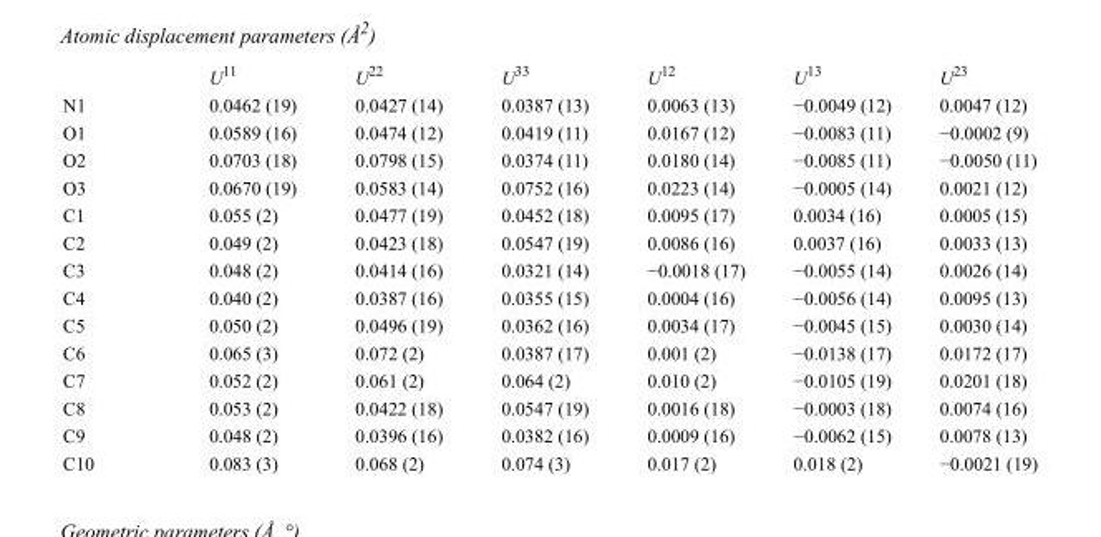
<table><thead><tr><td></td><td>U<sup>11</sup></td><td>U<sup>22</sup></td><td>U<sup>33</sup></td><td>U<sup>12</sup></td><td>U<sup>13</sup></td><td>U<sup>23</sup></td></tr></thead><tbody><tr><td>N1</td><td>0.0462 (19)</td><td>0.0427 (14)</td><td>0.0387 (13)</td><td>0.0063 (13)</td><td>−0.0049 (12)</td><td>0.0047 (12)</td></tr><tr><td>O1</td><td>0.0589 (16)</td><td>0.0474 (12)</td><td>0.0419 (11)</td><td>0.0167 (12)</td><td>−0.0083 (11)</td><td>−0.0002 (9)</td></tr><tr><td>O2</td><td>0.0703 (18)</td><td>0.0798 (15)</td><td>0.0374 (11)</td><td>0.0180 (14)</td><td>−0.0085 (11)</td><td>−0.0050 (11)</td></tr><tr><td>O3</td><td>0.0670 (19)</td><td>0.0583 (14)</td><td>0.0752 (16)</td><td>0.0223 (14)</td><td>−0.0005 (14)</td><td>0.0021 (12)</td></tr><tr><td>C1</td><td>0.055 (2)</td><td>0.0477 (19)</td><td>0.0452 (18)</td><td>0.0095 (17)</td><td>0.0034 (16)</td><td>0.0005 (15)</td></tr><tr><td>C2</td><td>0.049 (2)</td><td>0.0423 (18)</td><td>0.0547 (19)</td><td>0.0086 (16)</td><td>0.0037 (16)</td><td>0.0033 (13)</td></tr><tr><td>C3</td><td>0.048 (2)</td><td>0.0414 (16)</td><td>0.0321 (14)</td><td>−0.0018 (17)</td><td>−0.0055 (14)</td><td>0.0026 (14)</td></tr><tr><td>C4</td><td>0.040 (2)</td><td>0.0387 (16)</td><td>0.0355 (15)</td><td>0.0004 (16)</td><td>−0.0056 (14)</td><td>0.0095 (13)</td></tr><tr><td>C5</td><td>0.050 (2)</td><td>0.0496 (19)</td><td>0.0362 (16)</td><td>0.0034 (17)</td><td>−0.0045 (15)</td><td>0.0030 (14)</td></tr><tr><td>C6</td><td>0.065 (3)</td><td>0.072 (2)</td><td>0.0387 (17)</td><td>0.001 (2)</td><td>−0.0138 (17)</td><td>0.0172 (17)</td></tr><tr><td>C7</td><td>0.052 (2)</td><td>0.061 (2)</td><td>0.064 (2)</td><td>0.010 (2)</td><td>−0.0105 (19)</td><td>0.0201 (18)</td></tr><tr><td>C8</td><td>0.053 (2)</td><td>0.0422 (18)</td><td>0.0547 (19)</td><td>0.0016 (18)</td><td>−0.0003 (18)</td><td>0.0074 (16)</td></tr><tr><td>C9</td><td>0.048 (2)</td><td>0.0396 (16)</td><td>0.0382 (16)</td><td>0.0009 (16)</td><td>−0.0062 (15)</td><td>0.0078 (13)</td></tr><tr><td>C10</td><td>0.083 (3)</td><td>0.068 (2)</td><td>0.074 (3)</td><td>0.017 (2)</td><td>0.018 (2)</td><td>−0.0021 (19)</td></tr></tbody></table>